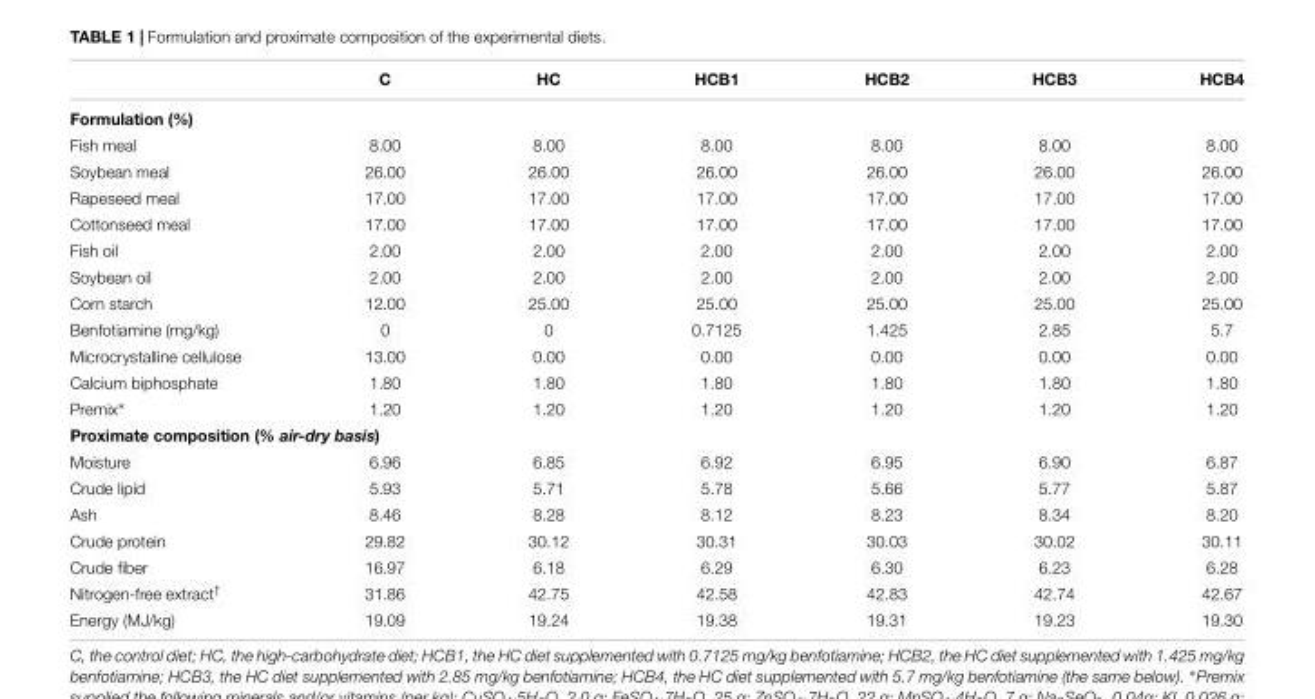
<table><thead><tr><td></td><td>C</td><td>HC</td><td>HCB1</td><td>HCB2</td><td>HCB3</td><td>HCB4</td></tr></thead><tbody><tr><td colspan="7">Formulation (%)</td></tr><tr><td>Fish meal</td><td>8.00</td><td>8.00</td><td>8.00</td><td>8.00</td><td>8.00</td><td>8.00</td></tr><tr><td>Soybean meal</td><td>26.00</td><td>26.00</td><td>26.00</td><td>26.00</td><td>26.00</td><td>26.00</td></tr><tr><td>Rapeseed meal</td><td>17.00</td><td>17.00</td><td>17.00</td><td>17.00</td><td>17.00</td><td>17.00</td></tr><tr><td>Cottonseed meal</td><td>17.00</td><td>17.00</td><td>17.00</td><td>17.00</td><td>17.00</td><td>17.00</td></tr><tr><td>Fish oil</td><td>2.00</td><td>2.00</td><td>2.00</td><td>2.00</td><td>2.00</td><td>2.00</td></tr><tr><td>Soybean oil</td><td>2.00</td><td>2.00</td><td>2.00</td><td>2.00</td><td>2.00</td><td>2.00</td></tr><tr><td>Corn starch</td><td>12.00</td><td>25.00</td><td>25.00</td><td>25.00</td><td>25.00</td><td>25.00</td></tr><tr><td>Benfotiamine (mg/kg)</td><td>0</td><td>0</td><td>0.7125</td><td>1.425</td><td>2.85</td><td>5.7</td></tr><tr><td>Microcrystalline cellulose</td><td>13.00</td><td>0.00</td><td>0.00</td><td>0.00</td><td>0.00</td><td>0.00</td></tr><tr><td>Calcium biphosphate</td><td>1.80</td><td>1.80</td><td>1.80</td><td>1.80</td><td>1.80</td><td>1.80</td></tr><tr><td>Premix∗</td><td>1.20</td><td>1.20</td><td>1.20</td><td>1.20</td><td>1.20</td><td>1.20</td></tr><tr><td colspan="7">Proximate composition (% air-dry basis)</td></tr><tr><td>Moisture</td><td>6.96</td><td>6.85</td><td>6.92</td><td>6.95</td><td>6.90</td><td>6.87</td></tr><tr><td>Crude lipid</td><td>5.93</td><td>5.71</td><td>5.78</td><td>5.66</td><td>5.77</td><td>5.87</td></tr><tr><td>Ash</td><td>8.46</td><td>8.28</td><td>8.12</td><td>8.23</td><td>8.34</td><td>8.20</td></tr><tr><td>Crude protein</td><td>29.82</td><td>30.12</td><td>30.31</td><td>30.03</td><td>30.02</td><td>30.11</td></tr><tr><td>Crude fiber</td><td>16.97</td><td>6.18</td><td>6.29</td><td>6.30</td><td>6.23</td><td>6.28</td></tr><tr><td>Nitrogen-free extract<sup>†</sup></td><td>31.86</td><td>42.75</td><td>42.58</td><td>42.83</td><td>42.74</td><td>42.67</td></tr><tr><td>Energy (MJ/kg)</td><td>19.09</td><td>19.24</td><td>19.38</td><td>19.31</td><td>19.23</td><td>19.30</td></tr></tbody></table>